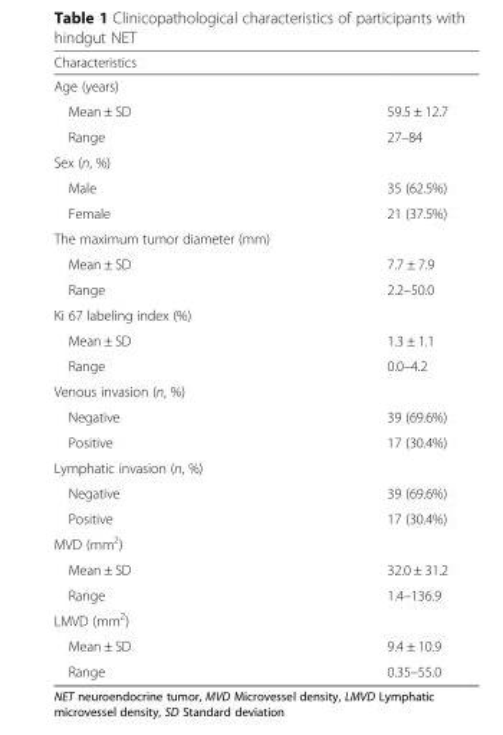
<table><thead><tr><td>Characteristics</td><td></td></tr></thead><tbody><tr><td colspan="2">Age (years)</td></tr><tr><td>Mean ± SD</td><td>59.5 ± 12.7</td></tr><tr><td>Range</td><td>27–84</td></tr><tr><td colspan="2">Sex (n, %)</td></tr><tr><td>Male</td><td>35 (62.5%)</td></tr><tr><td>Female</td><td>21 (37.5%)</td></tr><tr><td colspan="2">The maximum tumor diameter (mm)</td></tr><tr><td>Mean ± SD</td><td>7.7 ± 7.9</td></tr><tr><td>Range</td><td>2.2–50.0</td></tr><tr><td colspan="2">Ki 67 labeling index (%)</td></tr><tr><td>Mean ± SD</td><td>1.3 ± 1.1</td></tr><tr><td>Range</td><td>0.0–4.2</td></tr><tr><td colspan="2">Venous invasion (n, %)</td></tr><tr><td>Negative</td><td>39 (69.6%)</td></tr><tr><td>Positive</td><td>17 (30.4%)</td></tr><tr><td colspan="2">Lymphatic invasion (n, %)</td></tr><tr><td>Negative</td><td>39 (69.6%)</td></tr><tr><td>Positive</td><td>17 (30.4%)</td></tr><tr><td colspan="2">MVD (mm<sup>2</sup>)</td></tr><tr><td>Mean ± SD</td><td>32.0 ± 31.2</td></tr><tr><td>Range</td><td>1.4–136.9</td></tr><tr><td colspan="2">LMVD (mm<sup>2</sup>)</td></tr><tr><td>Mean ± SD</td><td>9.4 ± 10.9</td></tr><tr><td>Range</td><td>0.35–55.0</td></tr></tbody></table>